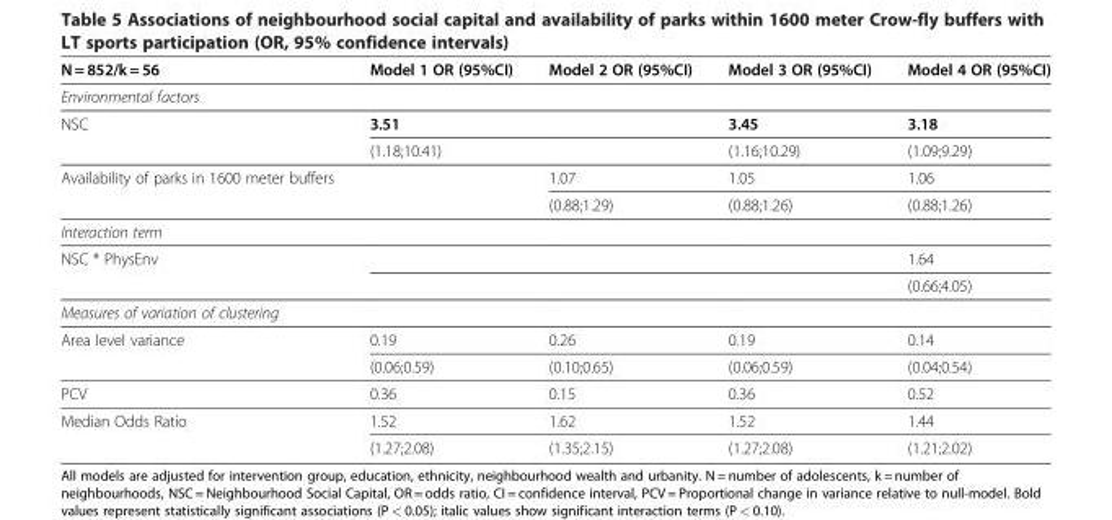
<table><thead><tr><td>N = 852/k = 56</td><td>Model 1 OR (95%CI)</td><td>Model 2 OR (95%CI)</td><td>Model 3 OR (95%CI)</td><td>Model 4 OR (95%CI)</td></tr></thead><tbody><tr><td colspan="5">Environmental factors</td></tr><tr><td rowspan="2">NSC</td><td>3.51</td><td></td><td>3.45</td><td>3.18</td></tr><tr><td>(1.18;10.41)</td><td></td><td>(1.16;10.29)</td><td>(1.09;9.29)</td></tr><tr><td rowspan="2">Availability of parks in 1600 meter buffers</td><td></td><td>1.07</td><td>1.05</td><td>1.06</td></tr><tr><td></td><td>(0.88;1.29)</td><td>(0.88;1.26)</td><td>(0.88;1.26)</td></tr><tr><td colspan="5">Interaction term</td></tr><tr><td rowspan="2">NSC * PhysEnv</td><td></td><td></td><td></td><td>1.64</td></tr><tr><td></td><td></td><td></td><td>(0.66;4.05)</td></tr><tr><td colspan="5">Measures of variation of clustering</td></tr><tr><td rowspan="2">Area level variance</td><td>0.19</td><td>0.26</td><td>0.19</td><td>0.14</td></tr><tr><td>(0.06;0.59)</td><td>(0.10;0.65)</td><td>(0.06;0.59)</td><td>(0.04;0.54)</td></tr><tr><td>PCV</td><td>0.36</td><td>0.15</td><td>0.36</td><td>0.52</td></tr><tr><td rowspan="2">Median Odds Ratio</td><td>1.52</td><td>1.62</td><td>1.52</td><td>1.44</td></tr><tr><td>(1.27;2.08)</td><td>(1.35;2.15)</td><td>(1.27;2.08)</td><td>(1.21;2.02)</td></tr></tbody></table>